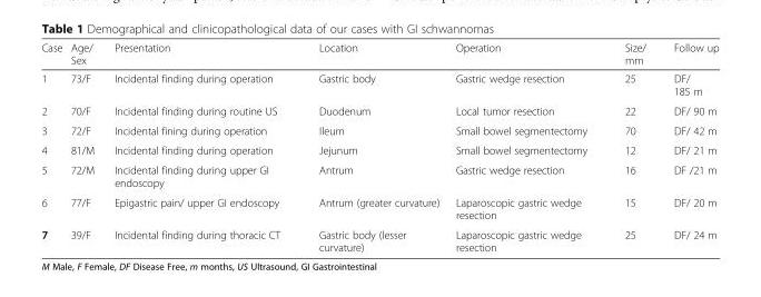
<table><thead><tr><td>Case</td><td>Age/ Sex</td><td>Presentation</td><td>Location</td><td>Operation</td><td>Size/ mm</td><td>Follow up</td></tr></thead><tbody><tr><td>1</td><td>73/F</td><td>Incidental finding during operation</td><td>Gastric body</td><td>Gastric wedge resection</td><td>25</td><td>DF/ 185 m</td></tr><tr><td>2</td><td>70/F</td><td>Incidental finding during routine US</td><td>Duodenum</td><td>Local tumor resection</td><td>22</td><td>DF/ 90 m</td></tr><tr><td>3</td><td>72/F</td><td>Incidental fining during operation</td><td>Ileum</td><td>Small bowel segmentectomy</td><td>70</td><td>DF/ 42 m</td></tr><tr><td>4</td><td>81/M</td><td>Incidental finding during operation</td><td>Jejunum</td><td>Small bowel segmentectomy</td><td>12</td><td>DF/ 21 m</td></tr><tr><td>5</td><td>72/M</td><td>Incidental finding during upper GI endoscopy</td><td>Antrum</td><td>Gastric wedge resection</td><td>16</td><td>DF /21 m</td></tr><tr><td>6</td><td>77/F</td><td>Epigastric pain/ upper GI endoscopy</td><td>Antrum (greater curvature)</td><td>Laparoscopic gastric wedge resection</td><td>15</td><td>DF/ 20 m</td></tr><tr><td>7</td><td>39/F</td><td>Incidental finding during thoracic CT</td><td>Gastric body (lesser curvature)</td><td>Laparoscopic gastric wedge resection</td><td>25</td><td>DF/ 24 m</td></tr></tbody></table>